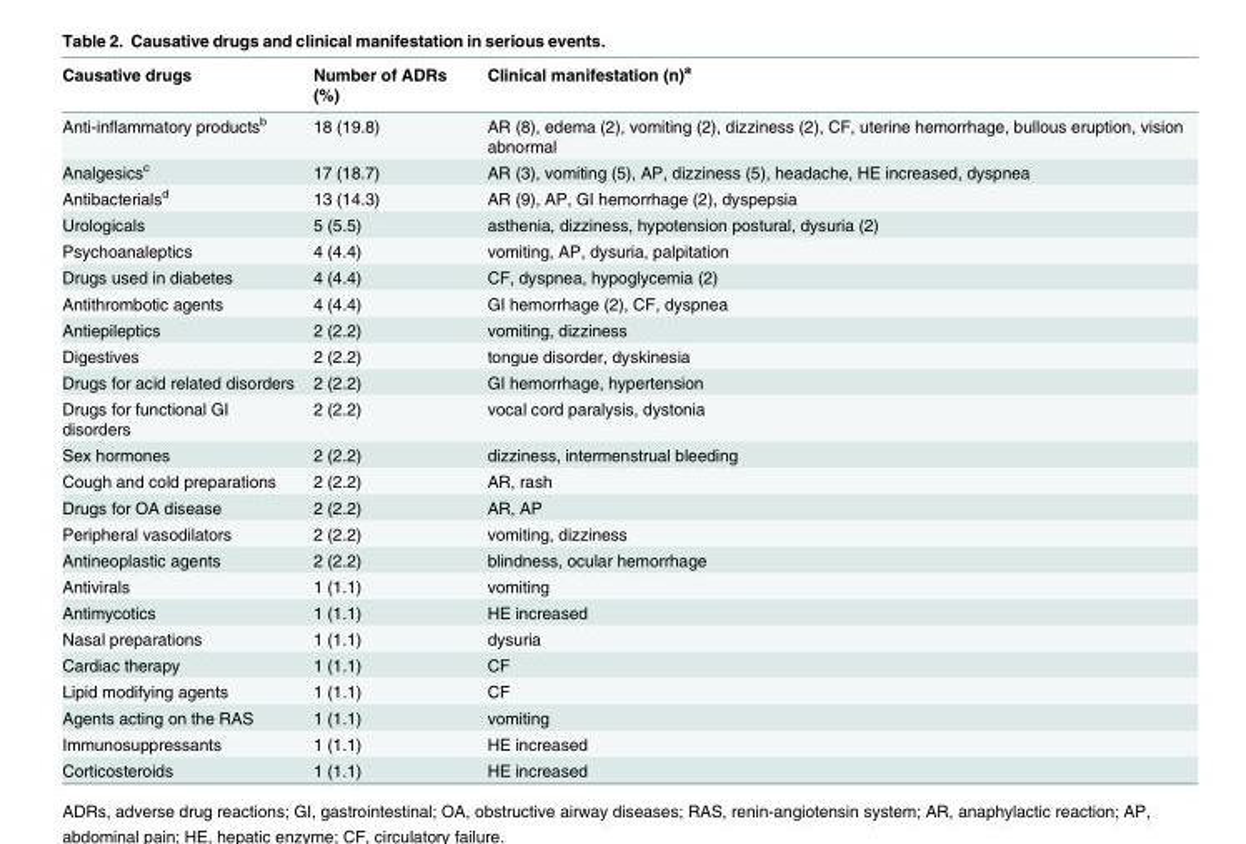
<table><thead><tr><td>Causative drugs</td><td>Number of ADRs (%)</td><td>Clinical manifestation (n)<sup>a</sup></td></tr></thead><tbody><tr><td>Anti-inflammatory products<sup>b</sup></td><td>18 (19.8)</td><td>AR (8), edema (2), vomiting (2), dizziness (2), CF, uterine hemorrhage, bullous eruption, vision abnormal</td></tr><tr><td>Analgesics<sup>c</sup></td><td>17 (18.7)</td><td>AR (3), vomiting (5), AP, dizziness (5), headache, HE increased, dyspnea</td></tr><tr><td>Antibacterials<sup>d</sup></td><td>13 (14.3)</td><td>AR (9), AP, GI hemorrhage (2), dyspepsia</td></tr><tr><td>Urologicals</td><td>5 (5.5)</td><td>asthenia, dizziness, hypotension postural, dysuria (2)</td></tr><tr><td>Psychoanaleptics</td><td>4 (4.4)</td><td>vomiting, AP, dysuria, palpitation</td></tr><tr><td>Drugs used in diabetes</td><td>4 (4.4)</td><td>CF, dyspnea, hypoglycemia (2)</td></tr><tr><td>Antithrombotic agents</td><td>4 (4.4)</td><td>GI hemorrhage (2), CF, dyspnea</td></tr><tr><td>Antiepileptics</td><td>2 (2.2)</td><td>vomiting, dizziness</td></tr><tr><td>Digestives</td><td>2 (2.2)</td><td>tongue disorder, dyskinesia</td></tr><tr><td>Drugs for acid related disorders</td><td>2 (2.2)</td><td>GI hemorrhage, hypertension</td></tr><tr><td>Drugs for functional GI disorders</td><td>2 (2.2)</td><td>vocal cord paralysis, dystonia</td></tr><tr><td>Sex hormones</td><td>2 (2.2)</td><td>dizziness, intermenstrual bleeding</td></tr><tr><td>Cough and cold preparations</td><td>2 (2.2)</td><td>AR, rash</td></tr><tr><td>Drugs for OA disease</td><td>2 (2.2)</td><td>AR, AP</td></tr><tr><td>Peripheral vasodilators</td><td>2 (2.2)</td><td>vomiting, dizziness</td></tr><tr><td>Antineoplastic agents</td><td>2 (2.2)</td><td>blindness, ocular hemorrhage</td></tr><tr><td>Antivirals</td><td>1 (1.1)</td><td>vomiting</td></tr><tr><td>Antimycotics</td><td>1 (1.1)</td><td>HE increased</td></tr><tr><td>Nasal preparations</td><td>1 (1.1)</td><td>dysuria</td></tr><tr><td>Cardiac therapy</td><td>1 (1.1)</td><td>CF</td></tr><tr><td>Lipid modifying agents</td><td>1 (1.1)</td><td>CF</td></tr><tr><td>Agents acting on the RAS</td><td>1 (1.1)</td><td>vomiting</td></tr><tr><td>Immunosuppressants</td><td>1 (1.1)</td><td>HE increased</td></tr><tr><td>Corticosteroids</td><td>1 (1.1)</td><td>HE increased</td></tr></tbody></table>